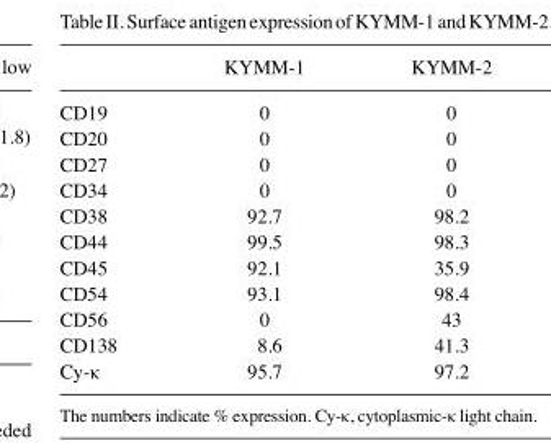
<table><thead><tr><td></td><td>KYMM-1</td><td>KYMM-2</td></tr></thead><tbody><tr><td>CD19</td><td>0</td><td>0</td></tr><tr><td>CD20</td><td>0</td><td>0</td></tr><tr><td>CD27</td><td>0</td><td>0</td></tr><tr><td>CD34</td><td>0</td><td>0</td></tr><tr><td>CD38</td><td>92.7</td><td>98.2</td></tr><tr><td>CD44</td><td>99.5</td><td>98.3</td></tr><tr><td>CD45</td><td>92.1</td><td>35.9</td></tr><tr><td>CD54</td><td>93.1</td><td>98.4</td></tr><tr><td>CD56</td><td>0</td><td>43</td></tr><tr><td>CD138</td><td>8.6</td><td>41.3</td></tr><tr><td>Cy-κ</td><td>95.7</td><td>97.2</td></tr></tbody></table>